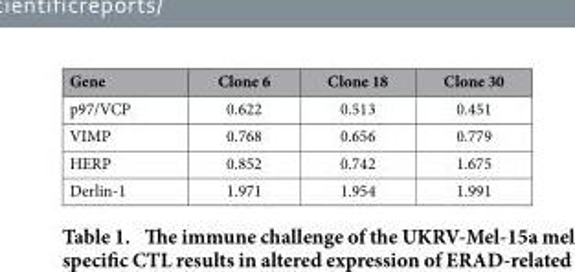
<table><thead><tr><td>Gene</td><td>Clone 6</td><td>Clone 18</td><td>Clone 30</td></tr></thead><tbody><tr><td>p97/VCP</td><td>0.622</td><td>0.513</td><td>0.451</td></tr><tr><td>VIMP</td><td>0.768</td><td>0.656</td><td>0.779</td></tr><tr><td>HERP</td><td>0.852</td><td>0.742</td><td>1.675</td></tr><tr><td>Derlin-1</td><td>1.971</td><td>1.954</td><td>1.991</td></tr></tbody></table>